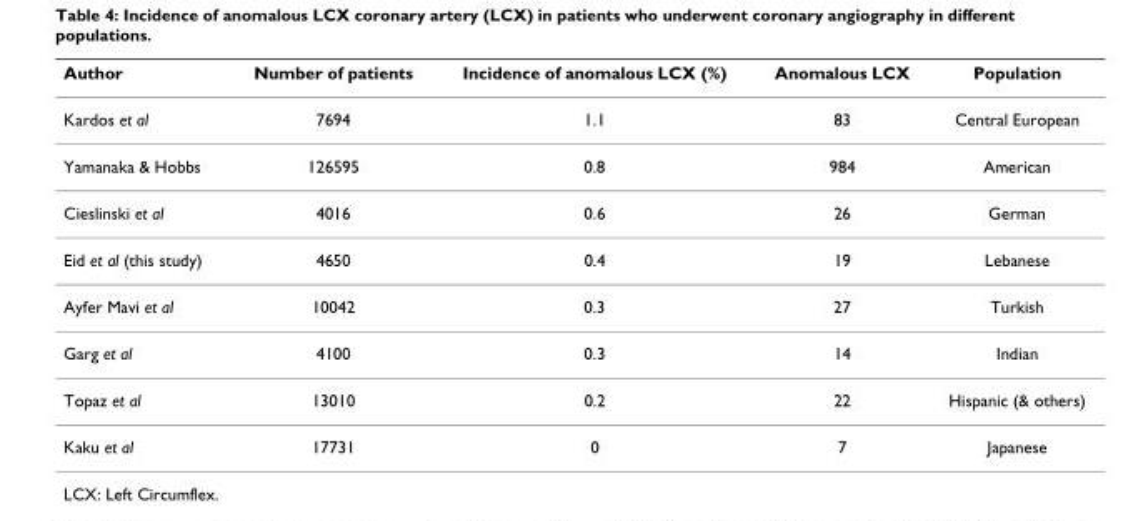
<table><thead><tr><td>Author</td><td>Number of patients</td><td>Incidence of anomalous LCX (%)</td><td>Anomalous LCX</td><td>Population</td></tr></thead><tbody><tr><td>Kardos et al</td><td>7694</td><td>1.1</td><td>83</td><td>Central European</td></tr><tr><td>Yamanaka &amp; Hobbs</td><td>126595</td><td>0.8</td><td>984</td><td>American</td></tr><tr><td>Cieslinski et al</td><td>4016</td><td>0.6</td><td>26</td><td>German</td></tr><tr><td>Eid et al (this study)</td><td>4650</td><td>0.4</td><td>19</td><td>Lebanese</td></tr><tr><td>Ayfer Mavi et al</td><td>10042</td><td>0.3</td><td>27</td><td>Turkish</td></tr><tr><td>Garg et al</td><td>4100</td><td>0.3</td><td>14</td><td>Indian</td></tr><tr><td>Topaz et al</td><td>13010</td><td>0.2</td><td>22</td><td>Hispanic (&amp; others)</td></tr><tr><td>Kaku et al</td><td>17731</td><td>0</td><td>7</td><td>Japanese</td></tr></tbody></table>